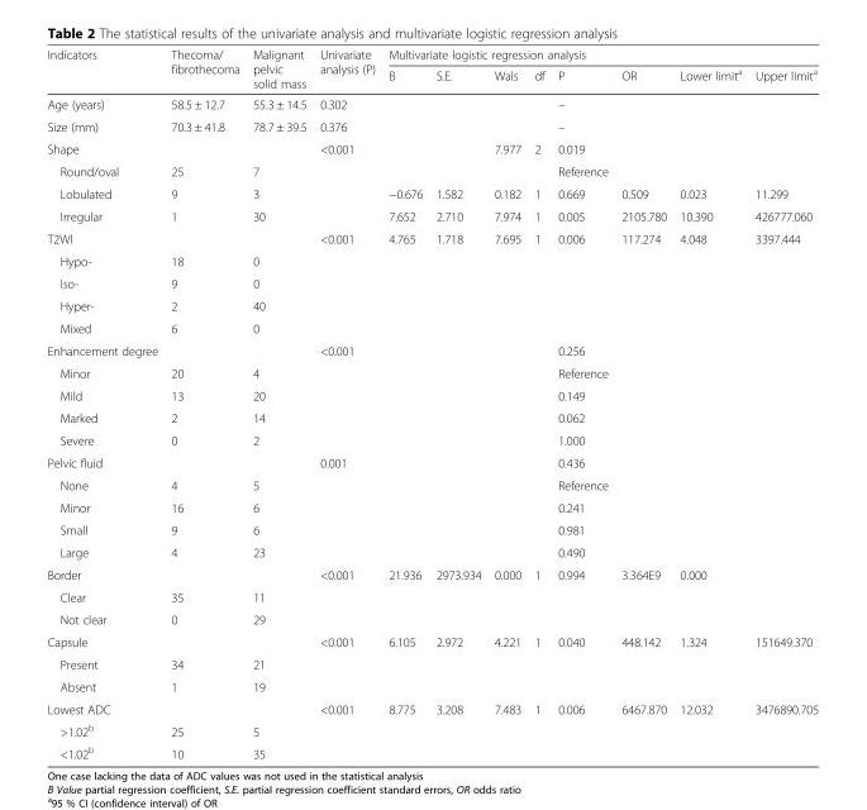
<table><thead><tr><td rowspan="2">Indicators</td><td rowspan="2">Thecoma/ fibrothecoma</td><td rowspan="2">Malignant pelvic solid mass</td><td rowspan="2">Univariate analysis (P)</td><td colspan="8">Multivariate logistic regression analysis</td></tr><tr><td>B</td><td>S.E.</td><td>Wals</td><td>df</td><td>P</td><td>OR</td><td>Lower limit<sup>a</sup></td><td>Upper limit<sup>a</sup></td></tr></thead><tbody><tr><td>Age (years)</td><td>58.5 ± 12.7</td><td>55.3 ± 14.5</td><td>0.302</td><td></td><td></td><td></td><td></td><td>–</td><td></td><td></td><td></td></tr><tr><td>Size (mm)</td><td>70.3 ± 41.8</td><td>78.7 ± 39.5</td><td>0.376</td><td></td><td></td><td></td><td></td><td>–</td><td></td><td></td><td></td></tr><tr><td>Shape</td><td></td><td></td><td>&lt;0.001</td><td></td><td></td><td>7.977</td><td>2</td><td>0.019</td><td></td><td></td><td></td></tr><tr><td>Round/oval</td><td>25</td><td>7</td><td></td><td></td><td></td><td></td><td></td><td>Reference</td><td></td><td></td><td></td></tr><tr><td>Lobulated</td><td>9</td><td>3</td><td></td><td>−0.676</td><td>1.582</td><td>0.182</td><td>1</td><td>0.669</td><td>0.509</td><td>0.023</td><td>11.299</td></tr><tr><td>Irregular</td><td>1</td><td>30</td><td></td><td>7.652</td><td>2.710</td><td>7.974</td><td>1</td><td>0.005</td><td>2105.780</td><td>10.390</td><td>426777.060</td></tr><tr><td>T2WI</td><td></td><td></td><td>&lt;0.001</td><td>4.765</td><td>1.718</td><td>7.695</td><td>1</td><td>0.006</td><td>117.274</td><td>4.048</td><td>3397.444</td></tr><tr><td>Hypo-</td><td>18</td><td>0</td><td></td><td></td><td></td><td></td><td></td><td></td><td></td><td></td><td></td></tr><tr><td>Iso-</td><td>9</td><td>0</td><td></td><td></td><td></td><td></td><td></td><td></td><td></td><td></td><td></td></tr><tr><td>Hyper-</td><td>2</td><td>40</td><td></td><td></td><td></td><td></td><td></td><td></td><td></td><td></td><td></td></tr><tr><td>Mixed</td><td>6</td><td>0</td><td></td><td></td><td></td><td></td><td></td><td></td><td></td><td></td><td></td></tr><tr><td>Enhancement degree</td><td></td><td></td><td>&lt;0.001</td><td></td><td></td><td></td><td></td><td>0.256</td><td></td><td></td><td></td></tr><tr><td>Minor</td><td>20</td><td>4</td><td></td><td></td><td></td><td></td><td></td><td>Reference</td><td></td><td></td><td></td></tr><tr><td>Mild</td><td>13</td><td>20</td><td></td><td></td><td></td><td></td><td></td><td>0.149</td><td></td><td></td><td></td></tr><tr><td>Marked</td><td>2</td><td>14</td><td></td><td></td><td></td><td></td><td></td><td>0.062</td><td></td><td></td><td></td></tr><tr><td>Severe</td><td>0</td><td>2</td><td></td><td></td><td></td><td></td><td></td><td>1.000</td><td></td><td></td><td></td></tr><tr><td>Pelvic fluid</td><td></td><td></td><td>0.001</td><td></td><td></td><td></td><td></td><td>0.436</td><td></td><td></td><td></td></tr><tr><td>None</td><td>4</td><td>5</td><td></td><td></td><td></td><td></td><td></td><td>Reference</td><td></td><td></td><td></td></tr><tr><td>Minor</td><td>16</td><td>6</td><td></td><td></td><td></td><td></td><td></td><td>0.241</td><td></td><td></td><td></td></tr><tr><td>Small</td><td>9</td><td>6</td><td></td><td></td><td></td><td></td><td></td><td>0.981</td><td></td><td></td><td></td></tr><tr><td>Large</td><td>4</td><td>23</td><td></td><td></td><td></td><td></td><td></td><td>0.490</td><td></td><td></td><td></td></tr><tr><td>Border</td><td></td><td></td><td>&lt;0.001</td><td>21.936</td><td>2973.934</td><td>0.000</td><td>1</td><td>0.994</td><td>3.364E9</td><td>0.000</td><td></td></tr><tr><td>Clear</td><td>35</td><td>11</td><td></td><td></td><td></td><td></td><td></td><td></td><td></td><td></td><td></td></tr><tr><td>Not clear</td><td>0</td><td>29</td><td></td><td></td><td></td><td></td><td></td><td></td><td></td><td></td><td></td></tr><tr><td>Capsule</td><td></td><td></td><td>&lt;0.001</td><td>6.105</td><td>2.972</td><td>4.221</td><td>1</td><td>0.040</td><td>448.142</td><td>1.324</td><td>151649.370</td></tr><tr><td>Present</td><td>34</td><td>21</td><td></td><td></td><td></td><td></td><td></td><td></td><td></td><td></td><td></td></tr><tr><td>Absent</td><td>1</td><td>19</td><td></td><td></td><td></td><td></td><td></td><td></td><td></td><td></td><td></td></tr><tr><td>Lowest ADC</td><td></td><td></td><td>&lt;0.001</td><td>8.775</td><td>3.208</td><td>7.483</td><td>1</td><td>0.006</td><td>6467.870</td><td>12.032</td><td>3476890.705</td></tr><tr><td>&gt;1.02<sup>b</sup></td><td>25</td><td>5</td><td></td><td></td><td></td><td></td><td></td><td></td><td></td><td></td><td></td></tr><tr><td>&lt;1.02<sup>b</sup></td><td>10</td><td>35</td><td></td><td></td><td></td><td></td><td></td><td></td><td></td><td></td><td></td></tr></tbody></table>